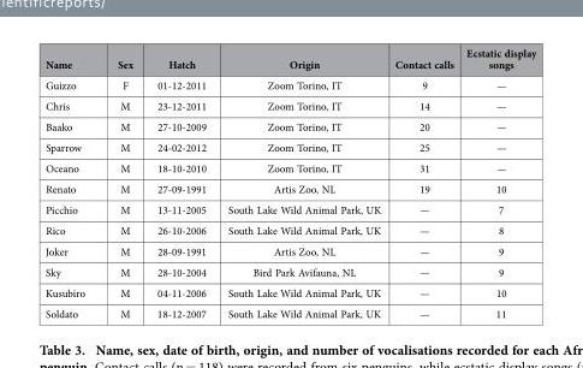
<table><thead><tr><td>Name</td><td>Sex</td><td>Hatch</td><td>Origin</td><td>Contact calls</td><td>Ecstatic display songs</td></tr></thead><tbody><tr><td>Guizzo</td><td>F</td><td>01-12-2011</td><td>Zoom Torino, IT</td><td>9</td><td>—</td></tr><tr><td>Chris</td><td>M</td><td>23-12-2011</td><td>Zoom Torino, IT</td><td>14</td><td>—</td></tr><tr><td>Baako</td><td>M</td><td>27-10-2009</td><td>Zoom Torino, IT</td><td>20</td><td>—</td></tr><tr><td>Sparrow</td><td>M</td><td>24-02-2012</td><td>Zoom Torino, IT</td><td>25</td><td>—</td></tr><tr><td>Oceano</td><td>M</td><td>18-10-2010</td><td>Zoom Torino, IT</td><td>31</td><td>—</td></tr><tr><td>Renato</td><td>M</td><td>27-09-1991</td><td>Artis Zoo, NL</td><td>19</td><td>10</td></tr><tr><td>Picchio</td><td>M</td><td>13-11-2005</td><td>South Lake Wild Animal Park, UK</td><td>—</td><td>7</td></tr><tr><td>Rico</td><td>M</td><td>26-10-2006</td><td>South Lake Wild Animal Park, UK</td><td>—</td><td>8</td></tr><tr><td>Joker</td><td>M</td><td>28-09-1991</td><td>Artis Zoo, NL</td><td>—</td><td>9</td></tr><tr><td>Sky</td><td>M</td><td>28-10-2004</td><td>Bird Park Avifauna, NL</td><td>—</td><td>9</td></tr><tr><td>Kusubiro</td><td>M</td><td>04-11-2006</td><td>South Lake Wild Animal Park, UK</td><td>—</td><td>10</td></tr><tr><td>Soldato</td><td>M</td><td>18-12-2007</td><td>South Lake Wild Animal Park, UK</td><td>—</td><td>11</td></tr></tbody></table>